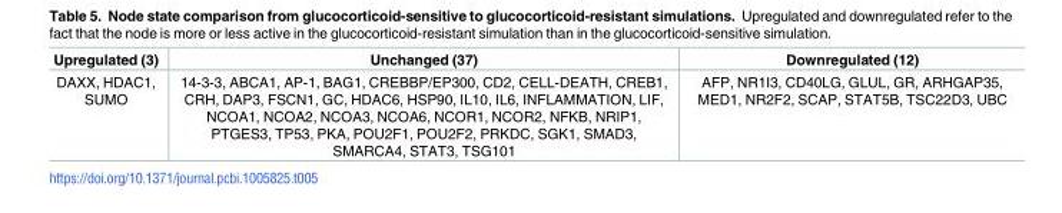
<table><thead><tr><td>Upregulated (3)</td><td>Unchanged (37)</td><td>Downregulated (12)</td></tr></thead><tbody><tr><td>DAXX, HDAC1, SUMO</td><td>14-3-3, ABCA1, AP-1, BAG1, CREBBP/EP300, CD2, CELL-DEATH, CREB1, CRH, DAP3, FSCN1, GC, HDAC6, HSP90, IL10, IL6, INFLAMMATION, LIF, NCOA1, NCOA2, NCOA3, NCOA6, NCOR1, NCOR2, NFKB, NRIP1, PTGES3, TP53, PKA, POU2F1, POU2F2, PRKDC, SGK1, SMAD3, SMARCA4, STAT3, TSG101</td><td>AFP, NR1I3, CD40LG, GLUL, GR, ARHGAP35, MED1, NR2F2, SCAP, STAT5B, TSC22D3, UBC</td></tr></tbody></table>